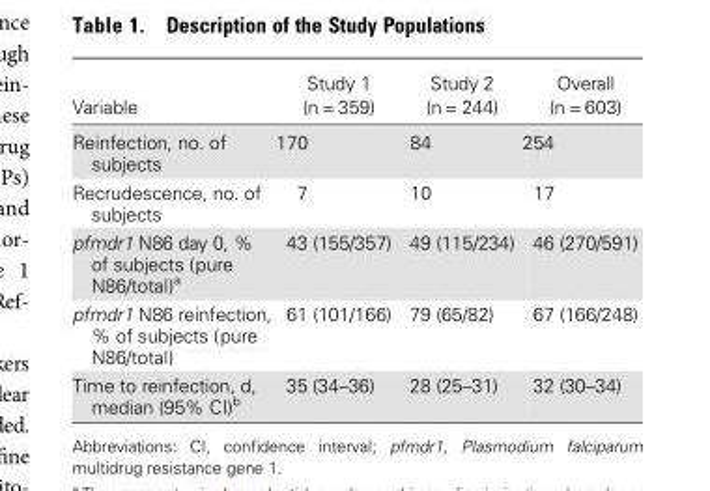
<table><thead><tr><td>Variable</td><td>Study 1 (n = 359)</td><td>Study 2 (n = 244)</td><td>Overall (n = 603)</td></tr></thead><tbody><tr><td>Reinfection, no. of subjects</td><td>170</td><td>84</td><td>254</td></tr><tr><td>Recrudescence, no. of subjects</td><td>7</td><td>10</td><td>17</td></tr><tr><td>pfmdr1 N86 day 0, % of subjects (pure N86/total)<sup>a</sup></td><td>43 (155/357)</td><td>49 (115/234)</td><td>46 (270/591)</td></tr><tr><td>pfmdr1 N86 reinfection, % of subjects (pure N86/total)</td><td>61 (101/166)</td><td>79 (65/82)</td><td>67 (166/248)</td></tr><tr><td>Time to reinfection, d, median (95% CI)<sup>b</sup></td><td>35 (34–36)</td><td>28 (25–31)</td><td>32 (30–34)</td></tr></tbody></table>